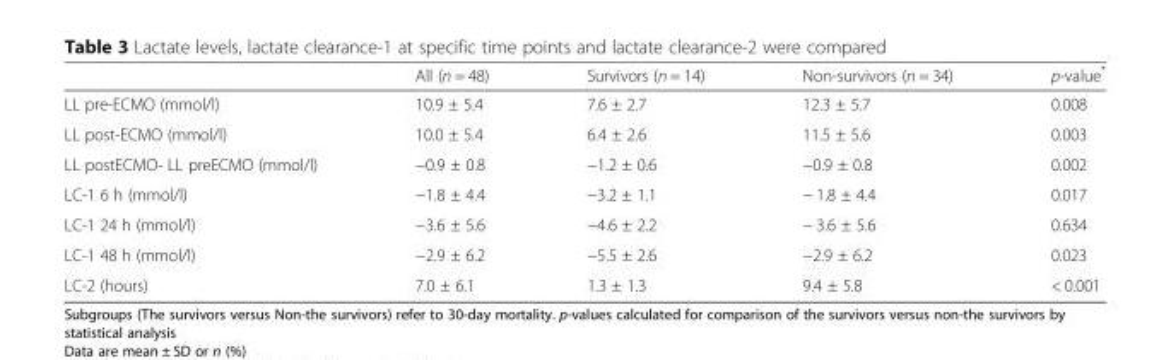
<table><thead><tr><td></td><td>All (n = 48)</td><td>Survivors (n = 14)</td><td>Non-survivors (n = 34)</td><td>p-value*</td></tr></thead><tbody><tr><td>LL pre-ECMO (mmol/l)</td><td>10.9 ± 5.4</td><td>7.6 ± 2.7</td><td>12.3 ± 5.7</td><td>0.008</td></tr><tr><td>LL post-ECMO (mmol/l)</td><td>10.0 ± 5.4</td><td>6.4 ± 2.6</td><td>11.5 ± 5.6</td><td>0.003</td></tr><tr><td>LL postECMO- LL preECMO (mmol/l)</td><td>−0.9 ± 0.8</td><td>−1.2 ± 0.6</td><td>−0.9 ± 0.8</td><td>0.002</td></tr><tr><td>LC-1 6 h (mmol/l)</td><td>−1.8 ± 4.4</td><td>−3.2 ± 1.1</td><td>− 1.8 ± 4.4</td><td>0.017</td></tr><tr><td>LC-1 24 h (mmol/l)</td><td>−3.6 ± 5.6</td><td>−4.6 ± 2.2</td><td>− 3.6 ± 5.6</td><td>0.634</td></tr><tr><td>LC-1 48 h (mmol/l)</td><td>−2.9 ± 6.2</td><td>−5.5 ± 2.6</td><td>−2.9 ± 6.2</td><td>0.023</td></tr><tr><td>LC-2 (hours)</td><td>7.0 ± 6.1</td><td>1.3 ± 1.3</td><td>9.4 ± 5.8</td><td>&lt; 0.001</td></tr></tbody></table>